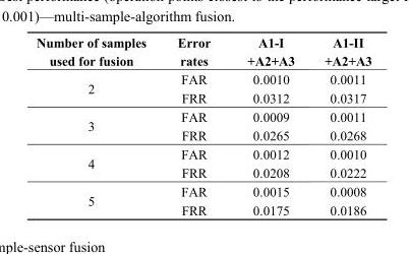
<table><thead><tr><td>Number of samples used for fusion</td><td>Error rates</td><td>A1-I +A2+A3</td><td>A1-II +A2+A3</td></tr></thead><tbody><tr><td rowspan="2">2</td><td>FAR</td><td>0.0010</td><td>0.0011</td></tr><tr><td>FRR</td><td>0.0312</td><td>0.0317</td></tr><tr><td rowspan="2">3</td><td>FAR</td><td>0.0009</td><td>0.0011</td></tr><tr><td>FRR</td><td>0.0265</td><td>0.0268</td></tr><tr><td rowspan="2">4</td><td>FAR</td><td>0.0012</td><td>0.0010</td></tr><tr><td>FRR</td><td>0.0208</td><td>0.0222</td></tr><tr><td rowspan="2">5</td><td>FAR</td><td>0.0015</td><td>0.0008</td></tr><tr><td>FRR</td><td>0.0175</td><td>0.0186</td></tr></tbody></table>